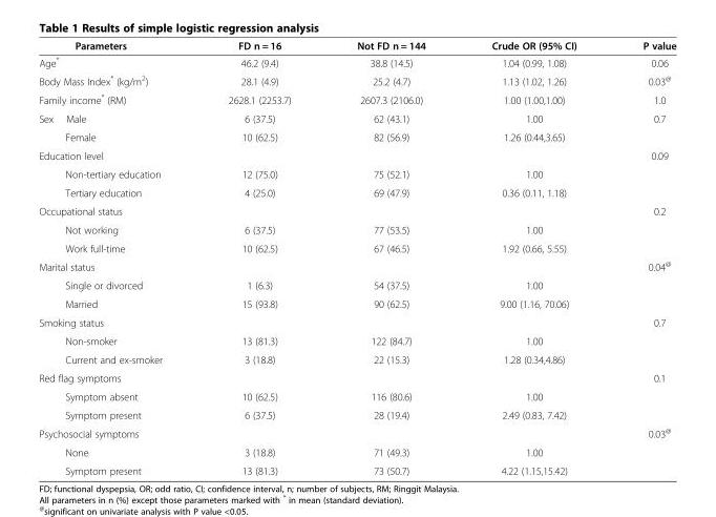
<table><thead><tr><td>Parameters</td><td>FD n = 16</td><td>Not FD n = 144</td><td>Crude OR (95% CI)</td><td>P value</td></tr></thead><tbody><tr><td>Age*</td><td>46.2 (9.4)</td><td>38.8 (14.5)</td><td>1.04 (0.99, 1.08)</td><td>0.06</td></tr><tr><td>Body Mass Index* (kg/m<sup>2</sup>)</td><td>28.1 (4.9)</td><td>25.2 (4.7)</td><td>1.13 (1.02, 1.26)</td><td>0.03<sup>@</sup></td></tr><tr><td>Family income* (RM)</td><td>2628.1 (2253.7)</td><td>2607.3 (2106.0)</td><td>1.00 (1.00,1.00)</td><td>1.0</td></tr><tr><td>Sex Male</td><td>6 (37.5)</td><td>62 (43.1)</td><td>1.00</td><td rowspan="2">0.7</td></tr><tr><td>Female</td><td>10 (62.5)</td><td>82 (56.9)</td><td>1.26 (0.44,3.65)</td></tr><tr><td colspan="4">Education level</td><td rowspan="3">0.09</td></tr><tr><td>Non-tertiary education</td><td>12 (75.0)</td><td>75 (52.1)</td><td>1.00</td></tr><tr><td>Tertiary education</td><td>4 (25.0)</td><td>69 (47.9)</td><td>0.36 (0.11, 1.18)</td></tr><tr><td colspan="4">Occupational status</td><td rowspan="3">0.2</td></tr><tr><td>Not working</td><td>6 (37.5)</td><td>77 (53.5)</td><td>1.00</td></tr><tr><td>Work full-time</td><td>10 (62.5)</td><td>67 (46.5)</td><td>1.92 (0.66, 5.55)</td></tr><tr><td colspan="4">Marital status</td><td rowspan="3">0.04<sup>@</sup></td></tr><tr><td>Single or divorced</td><td>1 (6.3)</td><td>54 (37.5)</td><td>1.00</td></tr><tr><td>Married</td><td>15 (93.8)</td><td>90 (62.5)</td><td>9.00 (1.16, 70.06)</td></tr><tr><td colspan="4">Smoking status</td><td rowspan="3">0.7</td></tr><tr><td>Non-smoker</td><td>13 (81.3)</td><td>122 (84.7)</td><td>1.00</td></tr><tr><td>Current and ex-smoker</td><td>3 (18.8)</td><td>22 (15.3)</td><td>1.28 (0.34,4.86)</td></tr><tr><td colspan="4">Red flag symptoms</td><td rowspan="3">0.1</td></tr><tr><td>Symptom absent</td><td>10 (62.5)</td><td>116 (80.6)</td><td>1.00</td></tr><tr><td>Symptom present</td><td>6 (37.5)</td><td>28 (19.4)</td><td>2.49 (0.83, 7.42)</td></tr><tr><td colspan="4">Psychosocial symptoms</td><td rowspan="2">0.03<sup>@</sup></td></tr><tr><td>None</td><td>3 (18.8)</td><td>71 (49.3)</td><td>1.00</td></tr><tr><td>Symptom present</td><td>13 (81.3)</td><td>73 (50.7)</td><td>4.22 (1.15,15.42)</td><td></td></tr></tbody></table>